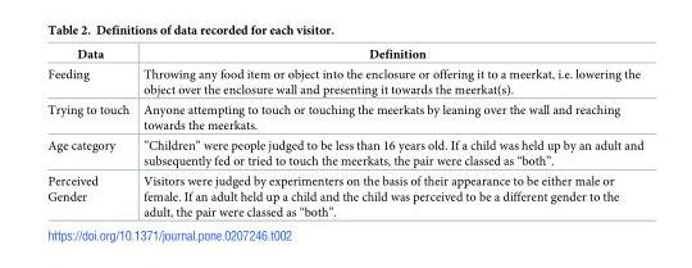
<table><thead><tr><td>Data</td><td>Definition</td></tr></thead><tbody><tr><td>Feeding</td><td>Throwing any food item or object into the enclosure or offering it to a meerkat, i.e. lowering the object over the enclosure wall and presenting it towards the meerkat(s).</td></tr><tr><td>Trying to touch</td><td>Anyone attempting to touch or touching the meerkats by leaning over the wall and reaching towards the meerkats.</td></tr><tr><td>Age category</td><td>”Children” were people judged to be less than 16 years old. If a child was held up by an adult and subsequently fed or tried to touch the meerkats, the pair were classed as “both”.</td></tr><tr><td>Perceived Gender</td><td>Visitors were judged by experimenters on the basis of their appearance to be either male or female. If an adult held up a child and the child was perceived to be a different gender to the adult, the pair were classed as “both”.</td></tr></tbody></table>